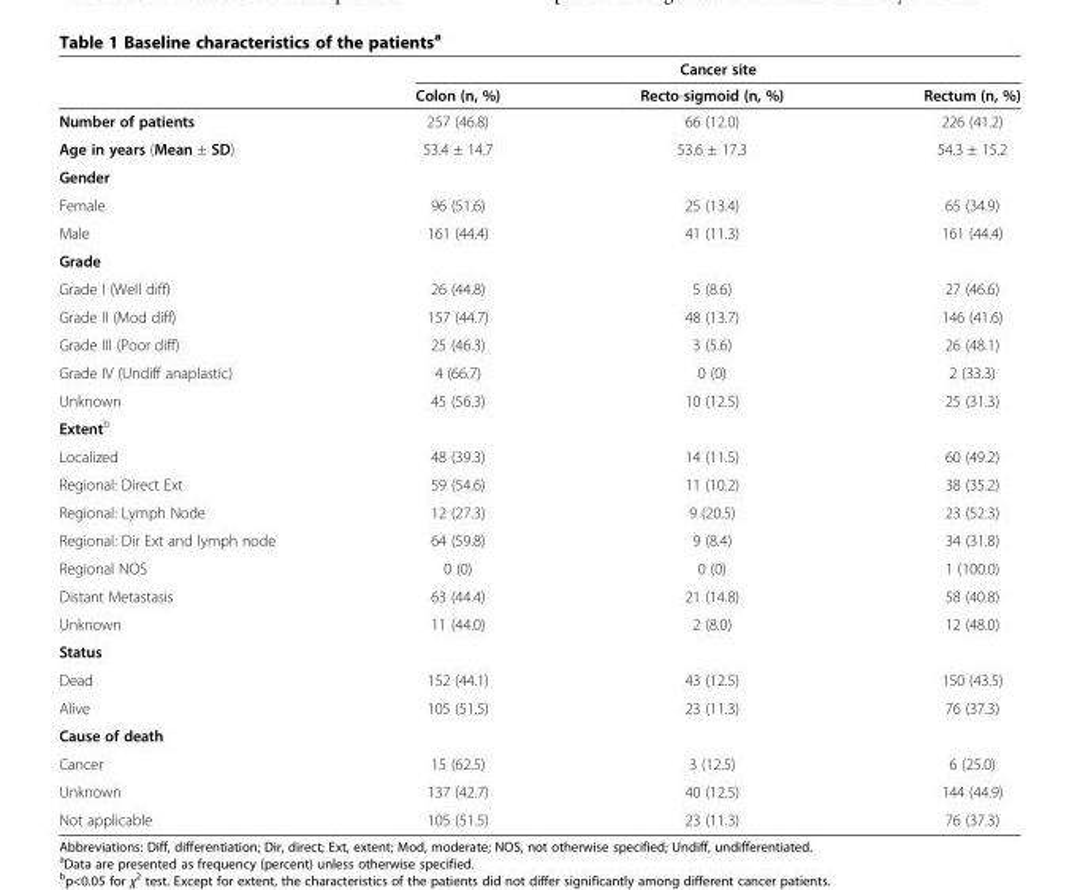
<table><thead><tr><td rowspan="2"></td><td colspan="3">Cancer site</td></tr><tr><td>Colon (n, %)</td><td>Recto-sigmoid (n, %)</td><td>Rectum (n, %)</td></tr></thead><tbody><tr><td>Number of patients</td><td>257 (46.8)</td><td>66 (12.0)</td><td>226 (41.2)</td></tr><tr><td>Age in years (Mean ± SD)</td><td>53.4 ± 14.7</td><td>53.6 ± 17.3</td><td>54.3 ± 15.2</td></tr><tr><td colspan="4">Gender</td></tr><tr><td>Female</td><td>96 (51.6)</td><td>25 (13.4)</td><td>65 (34.9)</td></tr><tr><td>Male</td><td>161 (44.4)</td><td>41 (11.3)</td><td>161 (44.4)</td></tr><tr><td colspan="4">Grade</td></tr><tr><td>Grade I (Well diff)</td><td>26 (44.8)</td><td>5 (8.6)</td><td>27 (46.6)</td></tr><tr><td>Grade II (Mod diff)</td><td>157 (44.7)</td><td>48 (13.7)</td><td>146 (41.6)</td></tr><tr><td>Grade III (Poor diff)</td><td>25 (46.3)</td><td>3 (5.6)</td><td>26 (48.1)</td></tr><tr><td>Grade IV (Undiff anaplastic)</td><td>4 (66.7)</td><td>0 (0)</td><td>2 (33.3)</td></tr><tr><td>Unknown</td><td>45 (56.3)</td><td>10 (12.5)</td><td>25 (31.3)</td></tr><tr><td colspan="4">Extent<sup>b</sup></td></tr><tr><td>Localized</td><td>48 (39.3)</td><td>14 (11.5)</td><td>60 (49.2)</td></tr><tr><td>Regional: Direct Ext</td><td>59 (54.6)</td><td>11 (10.2)</td><td>38 (35.2)</td></tr><tr><td>Regional: Lymph Node</td><td>12 (27.3)</td><td>9 (20.5)</td><td>23 (52.3)</td></tr><tr><td>Regional: Dir Ext and lymph node</td><td>64 (59.8)</td><td>9 (8.4)</td><td>34 (31.8)</td></tr><tr><td>Regional NOS</td><td>0 (0)</td><td>0 (0)</td><td>1 (100.0)</td></tr><tr><td>Distant Metastasis</td><td>63 (44.4)</td><td>21 (14.8)</td><td>58 (40.8)</td></tr><tr><td>Unknown</td><td>11 (44.0)</td><td>2 (8.0)</td><td>12 (48.0)</td></tr><tr><td colspan="4">Status</td></tr><tr><td>Dead</td><td>152 (44.1)</td><td>43 (12.5)</td><td>150 (43.5)</td></tr><tr><td>Alive</td><td>105 (51.5)</td><td>23 (11.3)</td><td>76 (37.3)</td></tr><tr><td colspan="4">Cause of death</td></tr><tr><td>Cancer</td><td>15 (62.5)</td><td>3 (12.5)</td><td>6 (25.0)</td></tr><tr><td>Unknown</td><td>137 (42.7)</td><td>40 (12.5)</td><td>144 (44.9)</td></tr><tr><td>Not applicable</td><td>105 (51.5)</td><td>23 (11.3)</td><td>76 (37.3)</td></tr></tbody></table>